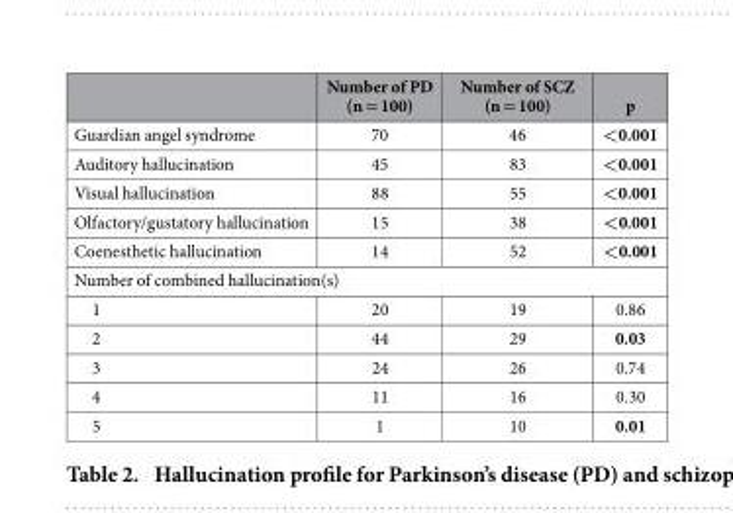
<table><thead><tr><td></td><td>Number of PD (n = 100)</td><td>Number of SCZ (n = 100)</td><td>p</td></tr></thead><tbody><tr><td>Guardian angel syndrome</td><td>70</td><td>46</td><td>&lt;0.001</td></tr><tr><td>Auditory hallucination</td><td>45</td><td>83</td><td>&lt;0.001</td></tr><tr><td>Visual hallucination</td><td>88</td><td>55</td><td>&lt;0.001</td></tr><tr><td>Olfactory/gustatory hallucination</td><td>15</td><td>38</td><td>&lt;0.001</td></tr><tr><td>Coenesthetic hallucination</td><td>14</td><td>52</td><td>&lt;0.001</td></tr><tr><td colspan="4">Number of combined hallucination(s)</td></tr><tr><td>1</td><td>20</td><td>19</td><td>0.86</td></tr><tr><td>2</td><td>44</td><td>29</td><td>0.03</td></tr><tr><td>3</td><td>24</td><td>26</td><td>0.74</td></tr><tr><td>4</td><td>11</td><td>16</td><td>0.30</td></tr><tr><td>5</td><td>1</td><td>10</td><td>0.01</td></tr></tbody></table>